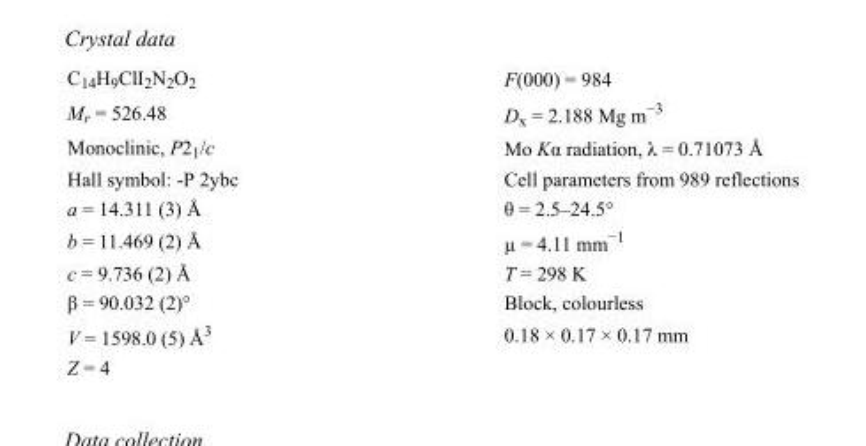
<table><tbody><tr><td>C<sub>14</sub>H<sub>9</sub>ClI<sub>2</sub>N<sub>2</sub>O<sub>2</sub></td><td>F(000) = 984</td></tr><tr><td>M<sub>r</sub> = 526.48</td><td>D<sub>x</sub> = 2.188 Mg m<sup>−3</sup></td></tr><tr><td>Monoclinic, P2<sub>1</sub>/c</td><td>Mo Kα radiation, λ = 0.71073 Å</td></tr><tr><td>Hall symbol: -P 2ybc</td><td>Cell parameters from 989 reflections</td></tr><tr><td>a = 14.311 (3) Å</td><td>θ = 2.5–24.5°</td></tr><tr><td>b = 11.469 (2) Å</td><td>µ = 4.11 mm<sup>−1</sup></td></tr><tr><td>c = 9.736 (2) Å</td><td>T = 298 K</td></tr><tr><td>β = 90.032 (2)°</td><td>Block, colourless</td></tr><tr><td>V = 1598.0 (5) Å<sup>3</sup></td><td>0.18 × 0.17 × 0.17 mm</td></tr><tr><td>Z = 4</td><td></td></tr></tbody></table>